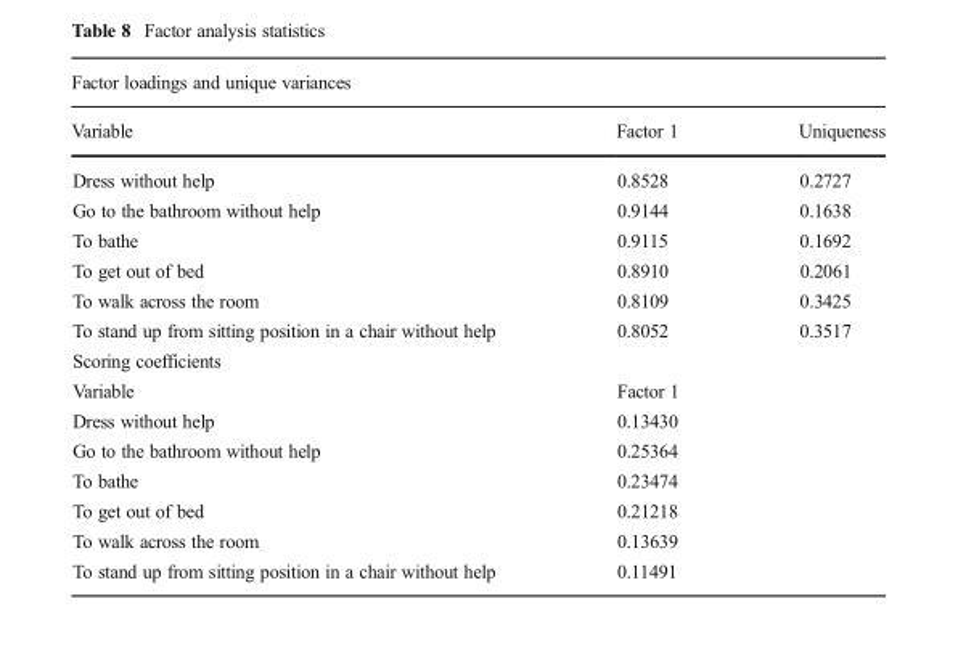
<table><thead><tr><td colspan="3">Factor loadings and unique variances</td></tr><tr><td>Variable</td><td>Factor 1</td><td>Uniqueness</td></tr></thead><tbody><tr><td>Dress without help</td><td>0.8528</td><td>0.2727</td></tr><tr><td>Go to the bathroom without help</td><td>0.9144</td><td>0.1638</td></tr><tr><td>To bathe</td><td>0.9115</td><td>0.1692</td></tr><tr><td>To get out of bed</td><td>0.8910</td><td>0.2061</td></tr><tr><td>To walk across the room</td><td>0.8109</td><td>0.3425</td></tr><tr><td>To stand up from sitting position in a chair without help</td><td>0.8052</td><td>0.3517</td></tr><tr><td colspan="3">Scoring coefficients</td></tr><tr><td>Variable</td><td colspan="2">Factor 1</td></tr><tr><td>Dress without help</td><td colspan="2">0.13430</td></tr><tr><td>Go to the bathroom without help</td><td colspan="2">0.25364</td></tr><tr><td>To bathe</td><td colspan="2">0.23474</td></tr><tr><td>To get out of bed</td><td colspan="2">0.21218</td></tr><tr><td>To walk across the room</td><td colspan="2">0.13639</td></tr><tr><td>To stand up from sitting position in a chair without help</td><td colspan="2">0.11491</td></tr></tbody></table>